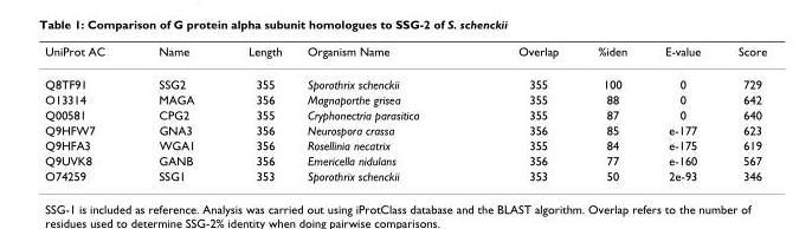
<table><thead><tr><td>UniProt AC</td><td>Name</td><td>Length</td><td>Organism Name</td><td>Overlap</td><td>%iden</td><td>E-value</td><td>Score</td></tr></thead><tbody><tr><td>Q8TF91</td><td>SSG2</td><td>355</td><td>Sporothrix schenckii</td><td>355</td><td>100</td><td>0</td><td>729</td></tr><tr><td>O13314</td><td>MAGA</td><td>356</td><td>Magnaporthe grisea</td><td>355</td><td>88</td><td>0</td><td>642</td></tr><tr><td>Q00581</td><td>CPG2</td><td>355</td><td>Cryphonectria parasitica</td><td>355</td><td>87</td><td>0</td><td>640</td></tr><tr><td>Q9HFW7</td><td>GNA3</td><td>356</td><td>Neurospora crassa</td><td>356</td><td>85</td><td>e-177</td><td>623</td></tr><tr><td>Q9HFA3</td><td>WGA1</td><td>356</td><td>Rosellinia necatrix</td><td>355</td><td>84</td><td>e-175</td><td>619</td></tr><tr><td>Q9UVK8</td><td>GANB</td><td>356</td><td>Emericella nidulans</td><td>356</td><td>77</td><td>e-160</td><td>567</td></tr><tr><td>O74259</td><td>SSG1</td><td>353</td><td>Sporothrix schenckii</td><td>353</td><td>50</td><td>2e-93</td><td>346</td></tr></tbody></table>